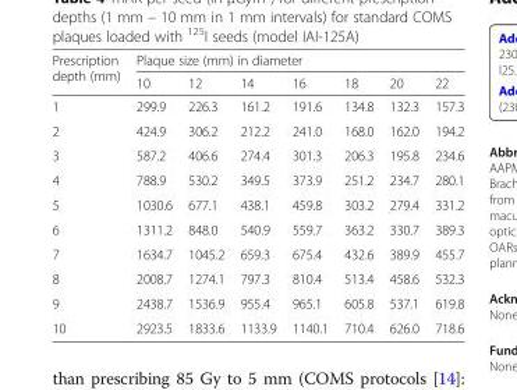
<table><thead><tr><td rowspan="2">Prescription depth (mm)</td><td colspan="7">Plaque size (mm) in diameter</td></tr><tr><td>10</td><td>12</td><td>14</td><td>16</td><td>18</td><td>20</td><td>22</td></tr></thead><tbody><tr><td>1</td><td>299.9</td><td>226.3</td><td>161.2</td><td>191.6</td><td>134.8</td><td>132.3</td><td>157.3</td></tr><tr><td>2</td><td>424.9</td><td>306.2</td><td>212.2</td><td>241.0</td><td>168.0</td><td>162.0</td><td>194.2</td></tr><tr><td>3</td><td>587.2</td><td>406.6</td><td>274.4</td><td>301.3</td><td>206.3</td><td>195.8</td><td>234.6</td></tr><tr><td>4</td><td>788.9</td><td>530.2</td><td>349.5</td><td>373.9</td><td>251.2</td><td>234.7</td><td>280.1</td></tr><tr><td>5</td><td>1030.6</td><td>677.1</td><td>438.1</td><td>459.8</td><td>303.2</td><td>279.4</td><td>331.2</td></tr><tr><td>6</td><td>1311.2</td><td>848.0</td><td>540.9</td><td>559.7</td><td>363.2</td><td>330.7</td><td>389.3</td></tr><tr><td>7</td><td>1634.7</td><td>1045.2</td><td>659.3</td><td>675.4</td><td>432.6</td><td>389.9</td><td>455.7</td></tr><tr><td>8</td><td>2008.7</td><td>1274.1</td><td>797.3</td><td>810.4</td><td>513.4</td><td>458.6</td><td>532.3</td></tr><tr><td>9</td><td>2438.7</td><td>1536.9</td><td>955.4</td><td>965.1</td><td>605.8</td><td>537.1</td><td>619.8</td></tr><tr><td>10</td><td>2923.5</td><td>1833.6</td><td>1133.9</td><td>1140.1</td><td>710.4</td><td>626.0</td><td>718.6</td></tr></tbody></table>